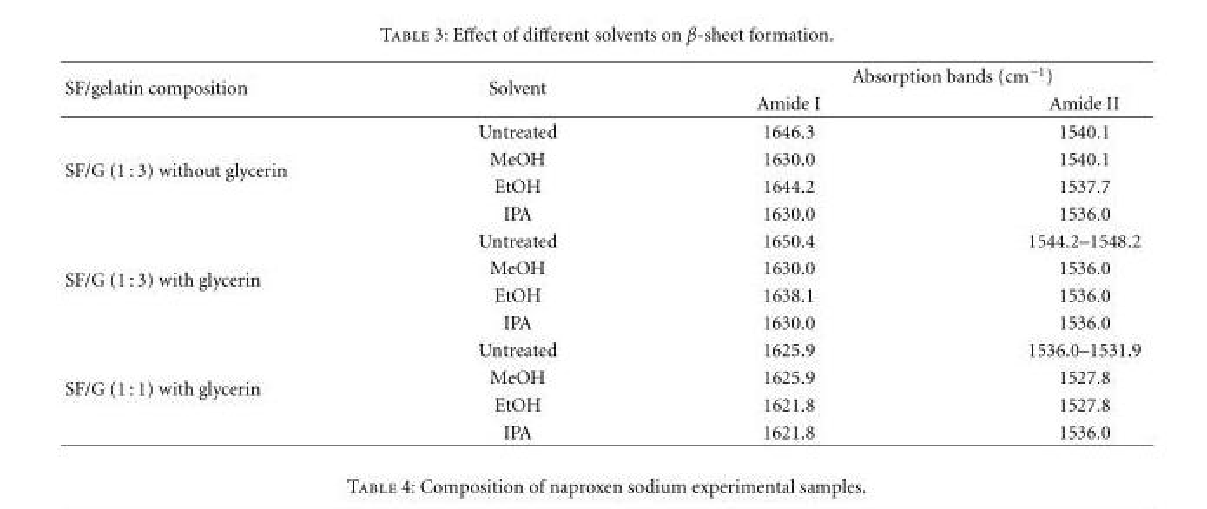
<table><thead><tr><td rowspan="2">SF/gelatin composition</td><td rowspan="2">Solvent</td><td colspan="2">Absorption bands (cm<sup>−1</sup>)</td></tr><tr><td>Amide I</td><td>Amide II</td></tr></thead><tbody><tr><td rowspan="4">SF/G (1 : 3) without glycerin</td><td>Untreated</td><td>1646.3</td><td>1540.1</td></tr><tr><td>MeOH</td><td>1630.0</td><td>1540.1</td></tr><tr><td>EtOH</td><td>1644.2</td><td>1537.7</td></tr><tr><td>IPA</td><td>1630.0</td><td>1536.0</td></tr><tr><td rowspan="4">SF/G (1 : 3) with glycerin</td><td>Untreated</td><td>1650.4</td><td>1544.2–1548.2</td></tr><tr><td>MeOH</td><td>1630.0</td><td>1536.0</td></tr><tr><td>EtOH</td><td>1638.1</td><td>1536.0</td></tr><tr><td>IPA</td><td>1630.0</td><td>1536.0</td></tr><tr><td rowspan="4">SF/G (1 : 1) with glycerin</td><td>Untreated</td><td>1625.9</td><td>1536.0–1531.9</td></tr><tr><td>MeOH</td><td>1625.9</td><td>1527.8</td></tr><tr><td>EtOH</td><td>1621.8</td><td>1527.8</td></tr><tr><td>IPA</td><td>1621.8</td><td>1536.0</td></tr></tbody></table>